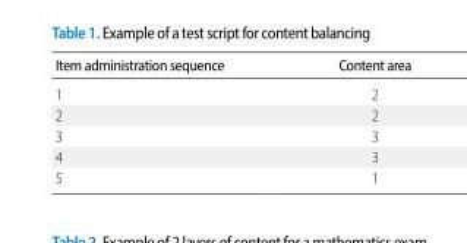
<table><thead><tr><td>Item administration sequence</td><td>Content area</td></tr></thead><tbody><tr><td>1</td><td>2</td></tr><tr><td>2</td><td>2</td></tr><tr><td>3</td><td>3</td></tr><tr><td>4</td><td>3</td></tr><tr><td>5</td><td>1</td></tr></tbody></table>